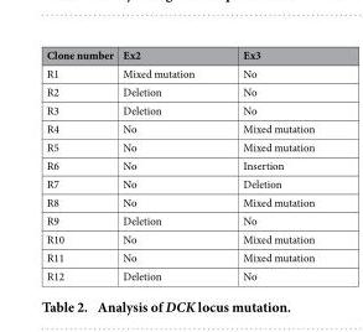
<table><thead><tr><td>Clone number</td><td>Ex2</td><td>Ex3</td></tr></thead><tbody><tr><td>R1</td><td>Mixed mutation</td><td>No</td></tr><tr><td>R2</td><td>Deletion</td><td>No</td></tr><tr><td>R3</td><td>Deletion</td><td>No</td></tr><tr><td>R4</td><td>No</td><td>Mixed mutation</td></tr><tr><td>R5</td><td>No</td><td>Mixed mutation</td></tr><tr><td>R6</td><td>No</td><td>Insertion</td></tr><tr><td>R7</td><td>No</td><td>Deletion</td></tr><tr><td>R8</td><td>No</td><td>Mixed mutation</td></tr><tr><td>R9</td><td>Deletion</td><td>No</td></tr><tr><td>R10</td><td>No</td><td>Mixed mutation</td></tr><tr><td>R11</td><td>No</td><td>Mixed mutation</td></tr><tr><td>R12</td><td>Deletion</td><td>No</td></tr></tbody></table>